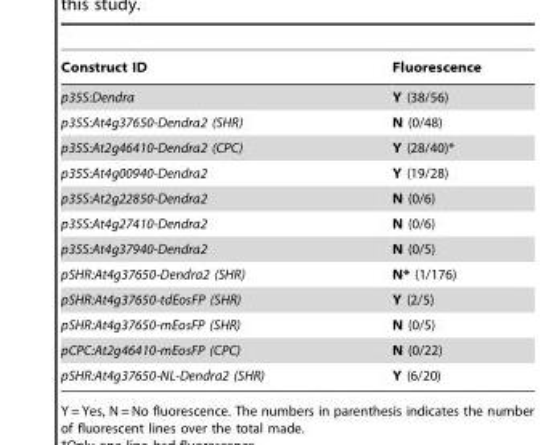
<table><thead><tr><td>Construct ID</td><td>Fluorescence</td></tr></thead><tbody><tr><td>p35S:Dendra</td><td>Y (38/56)</td></tr><tr><td>p35S:At4g37650-Dendra2 (SHR)</td><td>N (0/48)</td></tr><tr><td>p35S:At2g46410-Dendra2 (CPC)</td><td>Y (28/40)*</td></tr><tr><td>p35S:At4g00940-Dendra2</td><td>Y (19/28)</td></tr><tr><td>p35S:At2g22850-Dendra2</td><td>N (0/6)</td></tr><tr><td>p35S:At4g27410-Dendra2</td><td>N (0/6)</td></tr><tr><td>p35S:At4g37940-Dendra2</td><td>N (0/5)</td></tr><tr><td>pSHR:At4g37650-Dendra2 (SHR)</td><td>N* (1/176)</td></tr><tr><td>pSHR:At4g37650-tdEosFP (SHR)</td><td>Y (2/5)</td></tr><tr><td>pSHR:At4g37650-mEosFP (SHR)</td><td>N (0/5)</td></tr><tr><td>pCPC:At2g46410-mEosFP (CPC)</td><td>N (0/22)</td></tr><tr><td>pSHR:At4g37650-NL-Dendra2 (SHR)</td><td>Y (6/20)</td></tr></tbody></table>